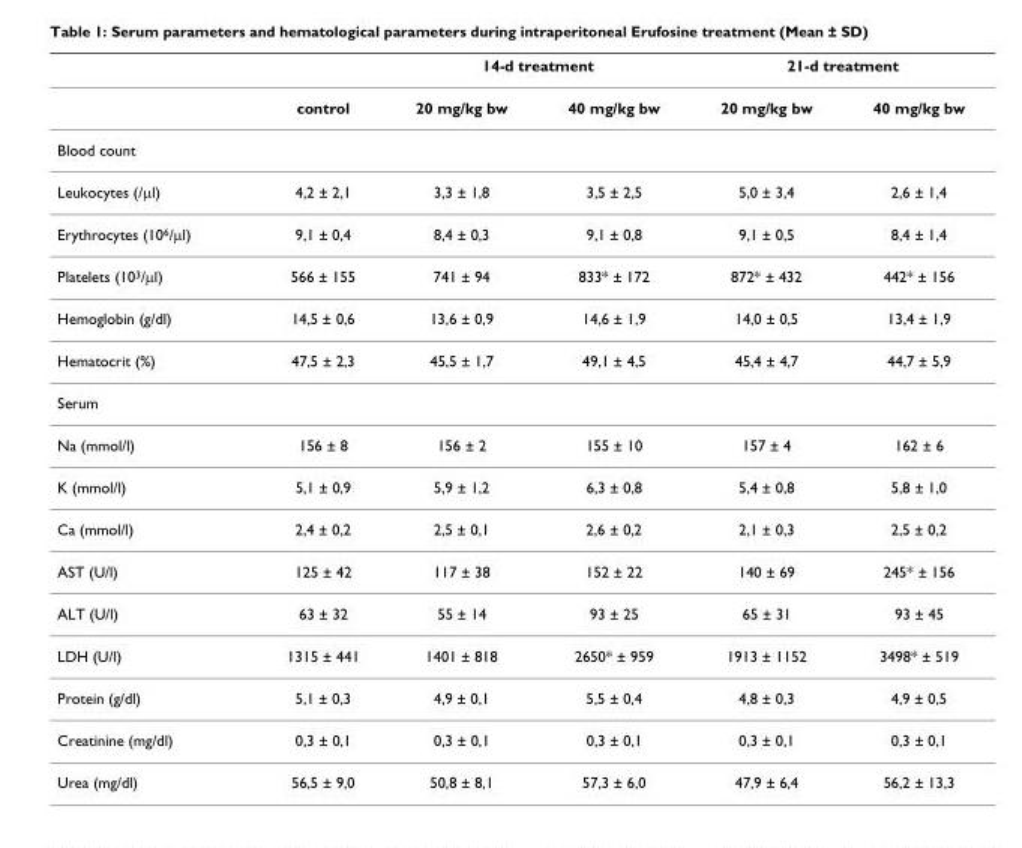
<table><thead><tr><td rowspan="2"></td><td rowspan="2">control</td><td colspan="2">14-d treatment</td><td colspan="2">21-d treatment</td></tr><tr><td>20 mg/kg bw</td><td>40 mg/kg bw</td><td>20 mg/kg bw</td><td>40 mg/kg bw</td></tr></thead><tbody><tr><td colspan="6">Blood count</td></tr><tr><td>Leukocytes (/μl)</td><td>4,2 ± 2,1</td><td>3,3 ± 1,8</td><td>3,5 ± 2,5</td><td>5,0 ± 3,4</td><td>2,6 ± 1,4</td></tr><tr><td>Erythrocytes (10<sup>6</sup>/μl)</td><td>9,1 ± 0,4</td><td>8,4 ± 0,3</td><td>9,1 ± 0,8</td><td>9,1 ± 0,5</td><td>8,4 ± 1,4</td></tr><tr><td>Platelets (10<sup>3</sup>/μl)</td><td>566 ± 155</td><td>741 ± 94</td><td>833* ± 172</td><td>872* ± 432</td><td>442* ± 156</td></tr><tr><td>Hemoglobin (g/dl)</td><td>14,5 ± 0,6</td><td>13,6 ± 0,9</td><td>14,6 ± 1,9</td><td>14,0 ± 0,5</td><td>13,4 ± 1,9</td></tr><tr><td>Hematocrit (%)</td><td>47,5 ± 2,3</td><td>45,5 ± 1,7</td><td>49,1 ± 4,5</td><td>45,4 ± 4,7</td><td>44,7 ± 5,9</td></tr><tr><td colspan="6">Serum</td></tr><tr><td>Na (mmol/l)</td><td>156 ± 8</td><td>156 ± 2</td><td>155 ± 10</td><td>157 ± 4</td><td>162 ± 6</td></tr><tr><td>K (mmol/l)</td><td>5,1 ± 0,9</td><td>5,9 ± 1,2</td><td>6,3 ± 0,8</td><td>5,4 ± 0,8</td><td>5,8 ± 1,0</td></tr><tr><td>Ca (mmol/l)</td><td>2,4 ± 0,2</td><td>2,5 ± 0,1</td><td>2,6 ± 0,2</td><td>2,1 ± 0,3</td><td>2,5 ± 0,2</td></tr><tr><td>AST (U/l)</td><td>125 ± 42</td><td>117 ± 38</td><td>152 ± 22</td><td>140 ± 69</td><td>245* ± 156</td></tr><tr><td>ALT (U/l)</td><td>63 ± 32</td><td>55 ± 14</td><td>93 ± 25</td><td>65 ± 31</td><td>93 ± 45</td></tr><tr><td>LDH (U/l)</td><td>1315 ± 441</td><td>1401 ± 818</td><td>2650* ± 959</td><td>1913 ± 1152</td><td>3498* ± 519</td></tr><tr><td>Protein (g/dl)</td><td>5,1 ± 0,3</td><td>4,9 ± 0,1</td><td>5,5 ± 0,4</td><td>4,8 ± 0,3</td><td>4,9 ± 0,5</td></tr><tr><td>Creatinine (mg/dl)</td><td>0,3 ± 0,1</td><td>0,3 ± 0,1</td><td>0,3 ± 0,1</td><td>0,3 ± 0,1</td><td>0,3 ± 0,1</td></tr><tr><td>Urea (mg/dl)</td><td>56,5 ± 9,0</td><td>50,8 ± 8,1</td><td>57,3 ± 6,0</td><td>47,9 ± 6,4</td><td>56,2 ± 13,3</td></tr></tbody></table>